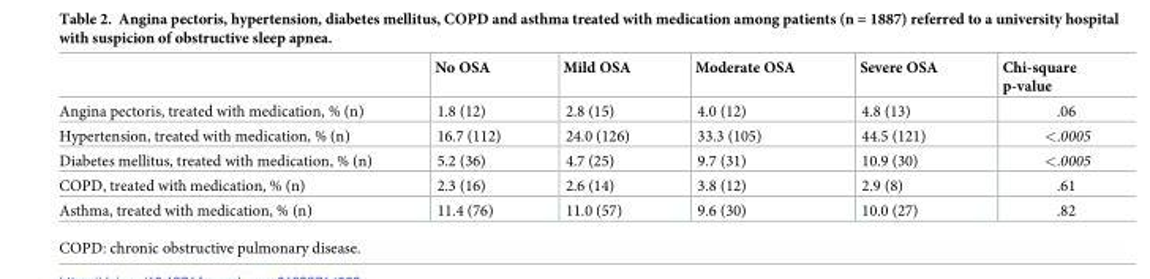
<table><thead><tr><td></td><td>No OSA</td><td>Mild OSA</td><td>Moderate OSA</td><td>Severe OSA</td><td>Chi-square p-value</td></tr></thead><tbody><tr><td>Angina pectoris, treated with medication, % (n)</td><td>1.8 (12)</td><td>2.8 (15)</td><td>4.0 (12)</td><td>4.8 (13)</td><td>.06</td></tr><tr><td>Hypertension, treated with medication, % (n)</td><td>16.7 (112)</td><td>24.0 (126)</td><td>33.3 (105)</td><td>44.5 (121)</td><td>&lt;.0005</td></tr><tr><td>Diabetes mellitus, treated with medication, % (n)</td><td>5.2 (36)</td><td>4.7 (25)</td><td>9.7 (31)</td><td>10.9 (30)</td><td>&lt;.0005</td></tr><tr><td>COPD, treated with medication, % (n)</td><td>2.3 (16)</td><td>2.6 (14)</td><td>3.8 (12)</td><td>2.9 (8)</td><td>.61</td></tr><tr><td>Asthma, treated with medication, % (n)</td><td>11.4 (76)</td><td>11.0 (57)</td><td>9.6 (30)</td><td>10.0 (27)</td><td>.82</td></tr></tbody></table>